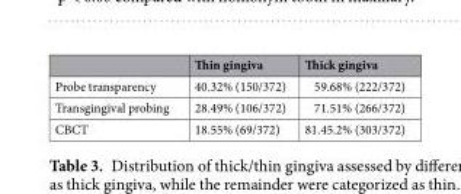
<table><thead><tr><td></td><td>Thin gingiva</td><td>Thick gingiva</td></tr></thead><tbody><tr><td>Probe transparency</td><td>40.32% (150/372)</td><td>59.68% (222/372)</td></tr><tr><td>Transgingival probing</td><td>28.49% (106/372)</td><td>71.51% (266/372)</td></tr><tr><td>CBCT</td><td>18.55% (69/372)</td><td>81.45.2% (303/372)</td></tr></tbody></table>